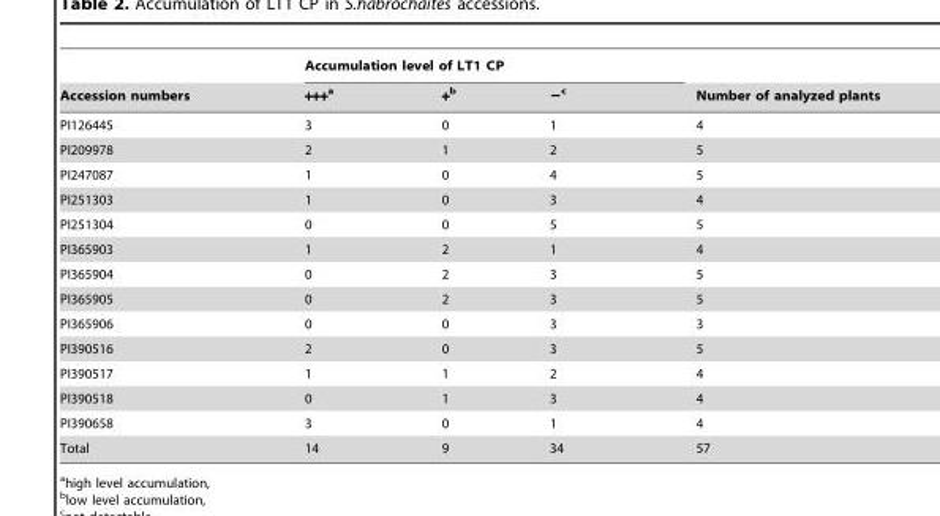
<table><thead><tr><td rowspan="2">Accession numbers</td><td colspan="3">Accumulation level of LT1 CP</td><td rowspan="2">Number of analyzed plants</td></tr><tr><td>+++<sup>a</sup></td><td>+<sup>b</sup></td><td>−c</td></tr></thead><tbody><tr><td>PI126445</td><td>3</td><td>0</td><td>1</td><td>4</td></tr><tr><td>PI209978</td><td>2</td><td>1</td><td>2</td><td>5</td></tr><tr><td>PI247087</td><td>1</td><td>0</td><td>4</td><td>5</td></tr><tr><td>PI251303</td><td>1</td><td>0</td><td>3</td><td>4</td></tr><tr><td>PI251304</td><td>0</td><td>0</td><td>5</td><td>5</td></tr><tr><td>PI365903</td><td>1</td><td>2</td><td>1</td><td>4</td></tr><tr><td>PI365904</td><td>0</td><td>2</td><td>3</td><td>5</td></tr><tr><td>PI365905</td><td>0</td><td>2</td><td>3</td><td>5</td></tr><tr><td>PI365906</td><td>0</td><td>0</td><td>3</td><td>3</td></tr><tr><td>PI390516</td><td>2</td><td>0</td><td>3</td><td>5</td></tr><tr><td>PI390517</td><td>1</td><td>1</td><td>2</td><td>4</td></tr><tr><td>PI390518</td><td>0</td><td>1</td><td>3</td><td>4</td></tr><tr><td>PI390658</td><td>3</td><td>0</td><td>1</td><td>4</td></tr><tr><td>Total</td><td>14</td><td>9</td><td>34</td><td>57</td></tr></tbody></table>